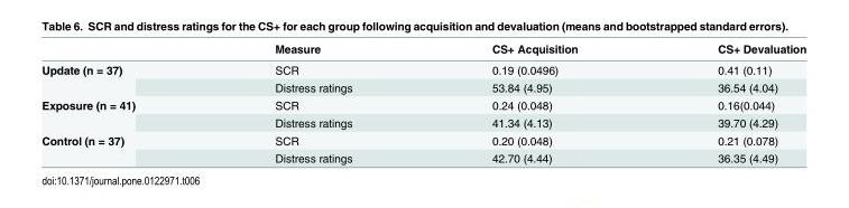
<table><thead><tr><td></td><td>Measure</td><td>CS+ Acquisition</td><td>CS+ Devaluation</td></tr></thead><tbody><tr><td rowspan="2">Update (n = 37)</td><td>SCR</td><td>0.19 (0.0496)</td><td>0.41 (0.11)</td></tr><tr><td>Distress ratings</td><td>53.84 (4.95)</td><td>36.54 (4.04)</td></tr><tr><td rowspan="2">Exposure (n = 41)</td><td>SCR</td><td>0.24 (0.048)</td><td>0.16(0.044)</td></tr><tr><td>Distress ratings</td><td>41.34 (4.13)</td><td>39.70 (4.29)</td></tr><tr><td rowspan="2">Control (n = 37)</td><td>SCR</td><td>0.20 (0.048)</td><td>0.21 (0.078)</td></tr><tr><td>Distress ratings</td><td>42.70 (4.44)</td><td>36.35 (4.49)</td></tr></tbody></table>